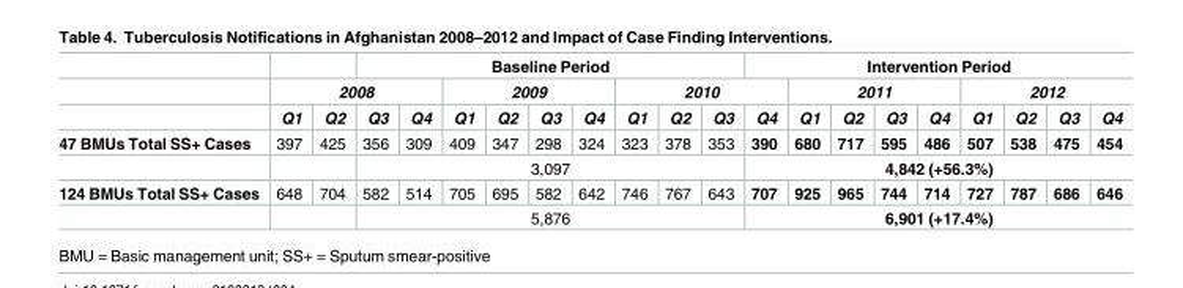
<table><thead><tr><td rowspan="3"></td><td></td><td></td><td colspan="9">Baseline Period</td><td colspan="9">Intervention Period</td></tr><tr><td colspan="4">2008</td><td colspan="4">2009</td><td colspan="4">2010</td><td colspan="4">2011</td><td colspan="4">2012</td></tr><tr><td>Q1</td><td>Q2</td><td>Q3</td><td>Q4</td><td>Q1</td><td>Q2</td><td>Q3</td><td>Q4</td><td>Q1</td><td>Q2</td><td>Q3</td><td>Q4</td><td>Q1</td><td>Q2</td><td>Q3</td><td>Q4</td><td>Q1</td><td>Q2</td><td>Q3</td><td>Q4</td></tr></thead><tbody><tr><td rowspan="2">47 BMUs Total SS+ Cases</td><td>397</td><td>425</td><td>356</td><td>309</td><td>409</td><td>347</td><td>298</td><td>324</td><td>323</td><td>378</td><td>353</td><td>390</td><td>680</td><td>717</td><td>595</td><td>486</td><td>507</td><td>538</td><td>475</td><td>454</td></tr><tr><td colspan="2"></td><td colspan="9">3,097</td><td colspan="9">4,842 (+56.3%)</td></tr><tr><td rowspan="2">124 BMUs Total SS+ Cases</td><td>648</td><td>704</td><td>582</td><td>514</td><td>705</td><td>695</td><td>582</td><td>642</td><td>746</td><td>767</td><td>643</td><td>707</td><td>925</td><td>965</td><td>744</td><td>714</td><td>727</td><td>787</td><td>686</td><td>646</td></tr><tr><td colspan="2"></td><td colspan="9">5,876</td><td colspan="9">6,901 (+17.4%)</td></tr></tbody></table>